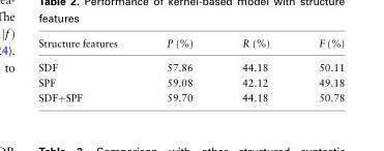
<table><thead><tr><td>Structure features</td><td>P (%)</td><td>R (%)</td><td>F (%)</td></tr></thead><tbody><tr><td>SDF</td><td>57.86</td><td>44.18</td><td>50.11</td></tr><tr><td>SPF</td><td>59.08</td><td>42.12</td><td>49.18</td></tr><tr><td>SDF+SPF</td><td>59.70</td><td>44.18</td><td>50.78</td></tr></tbody></table>